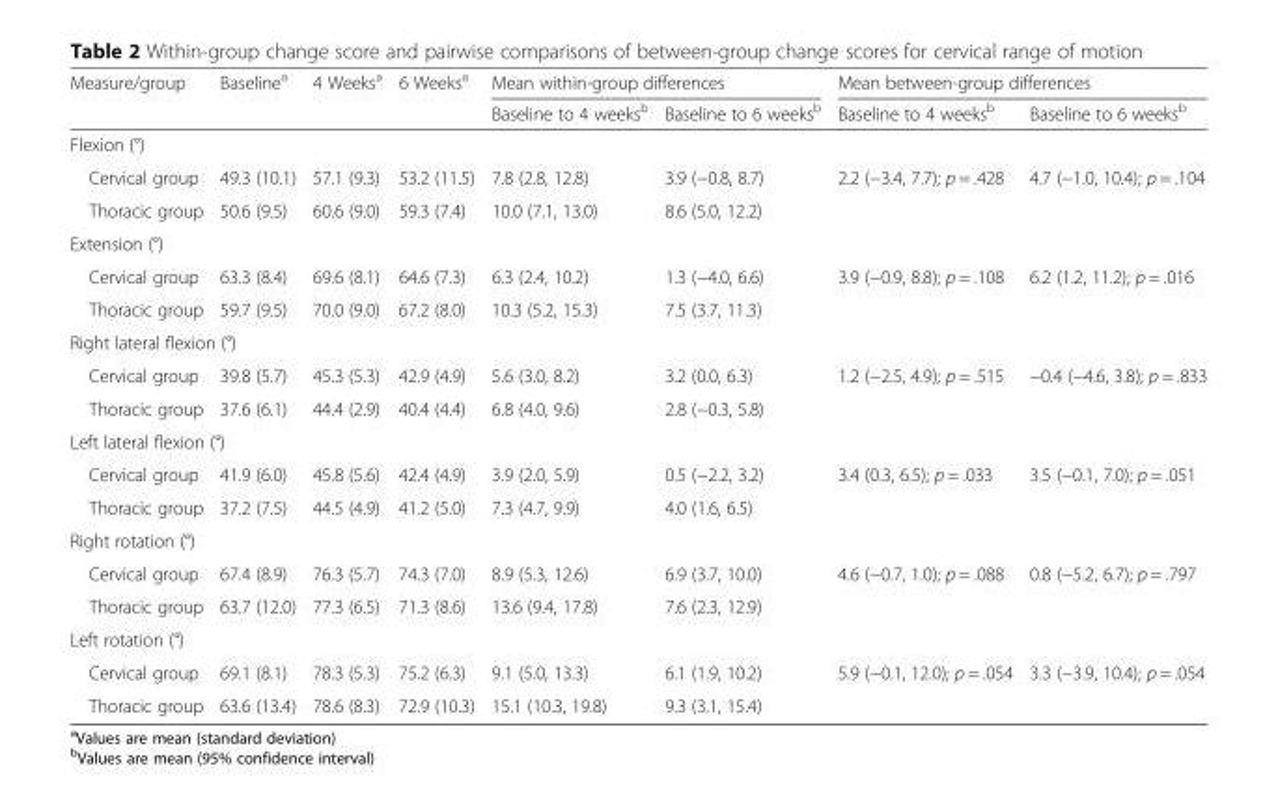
<table><thead><tr><td rowspan="2">Measure/group</td><td rowspan="2">Baseline<sup>a</sup></td><td rowspan="2">4 Weeks<sup>a</sup></td><td rowspan="2">6 Weeks<sup>a</sup></td><td colspan="2">Mean within-group differences</td><td colspan="2">Mean between-group differences</td></tr><tr><td>Baseline to 4 weeks<sup>b</sup></td><td>Baseline to 6 weeks<sup>b</sup></td><td>Baseline to 4 weeks<sup>b</sup></td><td>Baseline to 6 weeks<sup>b</sup></td></tr></thead><tbody><tr><td colspan="8">Flexion (°)</td></tr><tr><td>Cervical group</td><td>49.3 (10.1)</td><td>57.1 (9.3)</td><td>53.2 (11.5)</td><td>7.8 (2.8, 12.8)</td><td>3.9 (−0.8, 8.7)</td><td rowspan="2">2.2 (−3.4, 7.7); p = .428</td><td rowspan="2">4.7 (−1.0, 10.4); p = .104</td></tr><tr><td>Thoracic group</td><td>50.6 (9.5)</td><td>60.6 (9.0)</td><td>59.3 (7.4)</td><td>10.0 (7.1, 13.0)</td><td>8.6 (5.0, 12.2)</td></tr><tr><td colspan="8">Extension (°)</td></tr><tr><td>Cervical group</td><td>63.3 (8.4)</td><td>69.6 (8.1)</td><td>64.6 (7.3)</td><td>6.3 (2.4, 10.2)</td><td>1.3 (−4.0, 6.6)</td><td rowspan="2">3.9 (−0.9, 8.8); p = .108</td><td rowspan="2">6.2 (1.2, 11.2); p = .016</td></tr><tr><td>Thoracic group</td><td>59.7 (9.5)</td><td>70.0 (9.0)</td><td>67.2 (8.0)</td><td>10.3 (5.2, 15.3)</td><td>7.5 (3.7, 11.3)</td></tr><tr><td colspan="8">Right lateral flexion (°)</td></tr><tr><td>Cervical group</td><td>39.8 (5.7)</td><td>45.3 (5.3)</td><td>42.9 (4.9)</td><td>5.6 (3.0, 8.2)</td><td>3.2 (0.0, 6.3)</td><td rowspan="2">1.2 (−2.5, 4.9); p = .515</td><td rowspan="2">−0.4 (−4.6, 3.8); p = .833</td></tr><tr><td>Thoracic group</td><td>37.6 (6.1)</td><td>44.4 (2.9)</td><td>40.4 (4.4)</td><td>6.8 (4.0, 9.6)</td><td>2.8 (−0.3, 5.8)</td></tr><tr><td colspan="8">Left lateral flexion (°)</td></tr><tr><td>Cervical group</td><td>41.9 (6.0)</td><td>45.8 (5.6)</td><td>42.4 (4.9)</td><td>3.9 (2.0, 5.9)</td><td>0.5 (−2.2, 3.2)</td><td rowspan="2">3.4 (0.3, 6.5); p = .033</td><td rowspan="2">3.5 (−0.1, 7.0); p = .051</td></tr><tr><td>Thoracic group</td><td>37.2 (7.5)</td><td>44.5 (4.9)</td><td>41.2 (5.0)</td><td>7.3 (4.7, 9.9)</td><td>4.0 (1.6, 6.5)</td></tr><tr><td colspan="8">Right rotation (°)</td></tr><tr><td>Cervical group</td><td>67.4 (8.9)</td><td>76.3 (5.7)</td><td>74.3 (7.0)</td><td>8.9 (5.3, 12.6)</td><td>6.9 (3.7, 10.0)</td><td rowspan="2">4.6 (−0.7, 1.0); p = .088</td><td rowspan="2">0.8 (−5.2, 6.7); p = .797</td></tr><tr><td>Thoracic group</td><td>63.7 (12.0)</td><td>77.3 (6.5)</td><td>71.3 (8.6)</td><td>13.6 (9.4, 17.8)</td><td>7.6 (2.3, 12.9)</td></tr><tr><td colspan="8">Left rotation (°)</td></tr><tr><td>Cervical group</td><td>69.1 (8.1)</td><td>78.3 (5.3)</td><td>75.2 (6.3)</td><td>9.1 (5.0, 13.3)</td><td>6.1 (1.9, 10.2)</td><td rowspan="2">5.9 (−0.1, 12.0); p = .054</td><td rowspan="2">3.3 (−3.9, 10.4); p = .054</td></tr><tr><td>Thoracic group</td><td>63.6 (13.4)</td><td>78.6 (8.3)</td><td>72.9 (10.3)</td><td>15.1 (10.3, 19.8)</td><td>9.3 (3.1, 15.4)</td></tr></tbody></table>